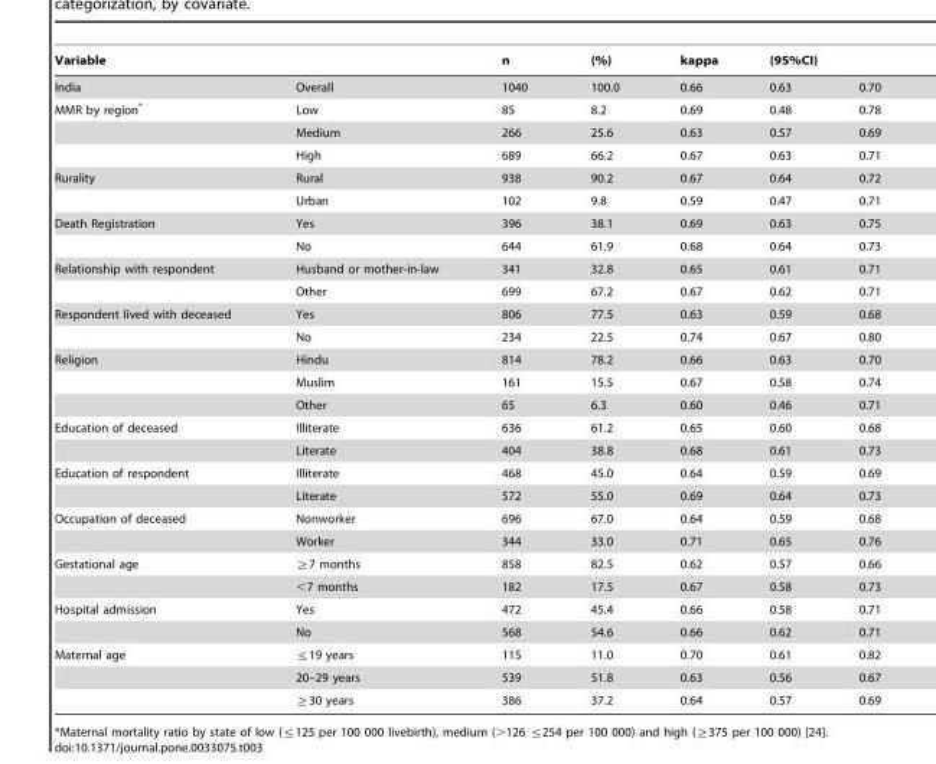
<table><thead><tr><td colspan="2">Variable</td><td rowspan="2">n 1040</td><td rowspan="2">(%) 100.0</td><td rowspan="2">kappa 0.66</td><td colspan="2">(95%CI)</td></tr><tr><td>India</td><td>Overall</td><td>0.63</td><td>0.70</td></tr></thead><tbody><tr><td rowspan="3">MMR by region*</td><td>Low</td><td>85</td><td>8.2</td><td>0.69</td><td>0.48</td><td>0.78</td></tr><tr><td>Medium</td><td>266</td><td>25.6</td><td>0.63</td><td>0.57</td><td>0.69</td></tr><tr><td>High</td><td>689</td><td>66.2</td><td>0.67</td><td>0.63</td><td>0.71</td></tr><tr><td rowspan="2">Rurality</td><td>Rural</td><td>938</td><td>90.2</td><td>0.67</td><td>0.64</td><td>0.72</td></tr><tr><td>Urban</td><td>102</td><td>9.8</td><td>0.59</td><td>0.47</td><td>0.71</td></tr><tr><td rowspan="2">Death Registration</td><td>Yes</td><td>396</td><td>38.1</td><td>0.69</td><td>0.63</td><td>0.75</td></tr><tr><td>No</td><td>644</td><td>61.9</td><td>0.68</td><td>0.64</td><td>0.73</td></tr><tr><td rowspan="2">Relationship with respondent</td><td>Husband or mother-in-law</td><td>341</td><td>32.8</td><td>0.65</td><td>0.61</td><td>0.71</td></tr><tr><td>Other</td><td>699</td><td>67.2</td><td>0.67</td><td>0.62</td><td>0.71</td></tr><tr><td rowspan="2">Respondent lived with deceased</td><td>Yes</td><td>806</td><td>77.5</td><td>0.63</td><td>0.59</td><td>0.68</td></tr><tr><td>No</td><td>234</td><td>22.5</td><td>0.74</td><td>0.67</td><td>0.80</td></tr><tr><td rowspan="3">Religion</td><td>Hindu</td><td>814</td><td>78.2</td><td>0.66</td><td>0.63</td><td>0.70</td></tr><tr><td>Muslim</td><td>161</td><td>15.5</td><td>0.67</td><td>0.58</td><td>0.74</td></tr><tr><td>Other</td><td>65</td><td>6.3</td><td>0.60</td><td>0.46</td><td>0.71</td></tr><tr><td rowspan="2">Education of deceased</td><td>Illiterate</td><td>636</td><td>61.2</td><td>0.65</td><td>0.60</td><td>0.68</td></tr><tr><td>Literate</td><td>404</td><td>38.8</td><td>0.68</td><td>0.61</td><td>0.73</td></tr><tr><td rowspan="2">Education of respondent</td><td>Illiterate</td><td>468</td><td>45.0</td><td>0.64</td><td>0.59</td><td>0.69</td></tr><tr><td>Literate</td><td>572</td><td>55.0</td><td>0.69</td><td>0.64</td><td>0.73</td></tr><tr><td rowspan="2">Occupation of deceased</td><td>Nonworker</td><td>696</td><td>67.0</td><td>0.64</td><td>0.59</td><td>0.68</td></tr><tr><td>Worker</td><td>344</td><td>33.0</td><td>0.71</td><td>0.65</td><td>0.76</td></tr><tr><td rowspan="2">Gestational age</td><td>§7 months</td><td>858</td><td>82.5</td><td>0.62</td><td>0.57</td><td>0.66</td></tr><tr><td>&lt;7 months</td><td>182</td><td>17.5</td><td>0.67</td><td>0.58</td><td>0.73</td></tr><tr><td rowspan="2">Hospital admission</td><td>Yes</td><td>472</td><td>45.4</td><td>0.66</td><td>0.58</td><td>0.71</td></tr><tr><td>No</td><td>568</td><td>54.6</td><td>0.66</td><td>0.62</td><td>0.71</td></tr><tr><td rowspan="3">Maternal age</td><td>ƒ19 years</td><td>115</td><td>11.0</td><td>0.70</td><td>0.61</td><td>0.82</td></tr><tr><td>20–29 years</td><td>539</td><td>51.8</td><td>0.63</td><td>0.56</td><td>0.67</td></tr><tr><td>§30 years</td><td>386</td><td>37.2</td><td>0.64</td><td>0.57</td><td>0.69</td></tr></tbody></table>